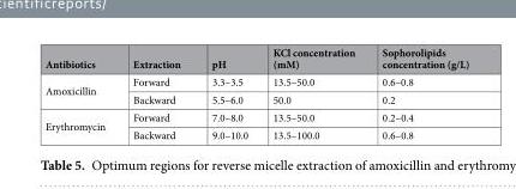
<table><thead><tr><td>Antibiotics</td><td>Extraction</td><td>pH</td><td>KCl concentration (mM)</td><td>Sophorolipids concentration (g/L)</td></tr></thead><tbody><tr><td rowspan="2">Amoxicillin</td><td>Forward</td><td>3.3–3.5</td><td>13.5–50.0</td><td>0.6–0.8</td></tr><tr><td>Backward</td><td>5.5–6.0</td><td>50.0</td><td>0.2</td></tr><tr><td rowspan="2">Erythromycin</td><td>Forward</td><td>7.0–8.0</td><td>13.5–50.0</td><td>0.2–0.4</td></tr><tr><td>Backward</td><td>9.0–10.0</td><td>13.5–100.0</td><td>0.6–0.8</td></tr></tbody></table>